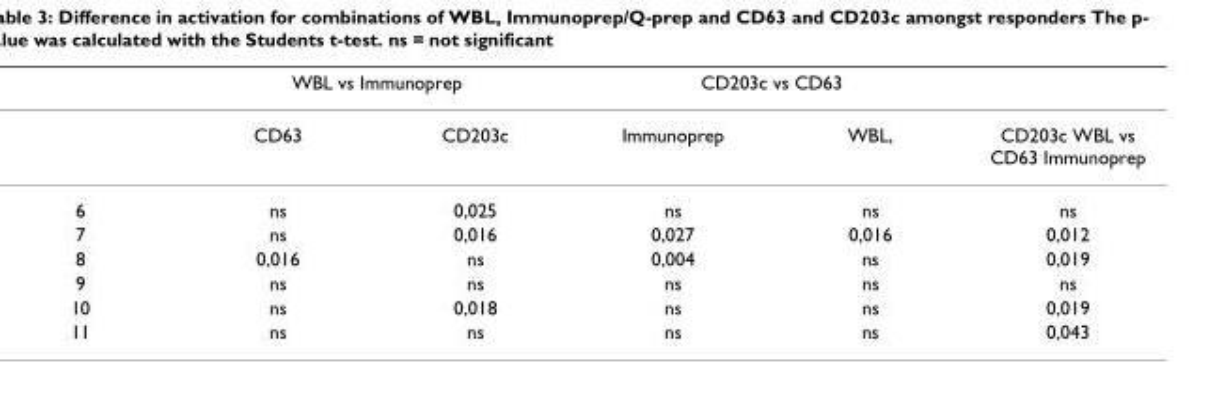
<table><thead><tr><td rowspan="2"></td><td colspan="2">WBL vs Immunoprep</td><td colspan="2">CD203c vs CD63</td><td rowspan="2">CD203c WBL vs CD63 Immunoprep</td></tr><tr><td>CD63</td><td>CD203c</td><td>Immunoprep</td><td>WBL,</td></tr></thead><tbody><tr><td>6</td><td>ns</td><td>0,025</td><td>ns</td><td>ns</td><td>ns</td></tr><tr><td>7</td><td>ns</td><td>0,016</td><td>0,027</td><td>0,016</td><td>0,012</td></tr><tr><td>8</td><td>0,016</td><td>ns</td><td>0,004</td><td>ns</td><td>0,019</td></tr><tr><td>9</td><td>ns</td><td>ns</td><td>ns</td><td>ns</td><td>ns</td></tr><tr><td>10</td><td>ns</td><td>0,018</td><td>ns</td><td>ns</td><td>0,019</td></tr><tr><td>11</td><td>ns</td><td>ns</td><td>ns</td><td>ns</td><td>0,043</td></tr></tbody></table>